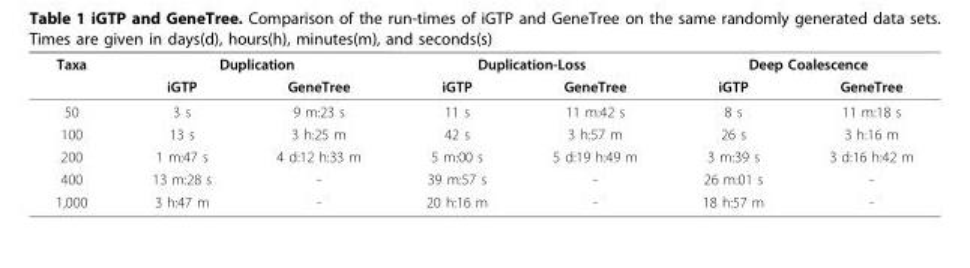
<table><thead><tr><td rowspan="2">Taxa</td><td colspan="2">Duplication</td><td colspan="2">Duplication-Loss</td><td colspan="2">Deep Coalescence</td></tr><tr><td>iGTP</td><td>GeneTree</td><td>iGTP</td><td>GeneTree</td><td>iGTP</td><td>GeneTree</td></tr></thead><tbody><tr><td>50</td><td>3 s</td><td>9 m:23 s</td><td>11 s</td><td>11 m:42 s</td><td>8 s</td><td>11 m:18 s</td></tr><tr><td>100</td><td>13 s</td><td>3 h:25 m</td><td>42 s</td><td>3 h:57 m</td><td>26 s</td><td>3 h:16 m</td></tr><tr><td>200</td><td>1 m:47 s</td><td>4 d:12 h:33 m</td><td>5 m:00 s</td><td>5 d:19 h:49 m</td><td>3 m:39 s</td><td>3 d:16 h:42 m</td></tr><tr><td>400</td><td>13 m:28 s</td><td>-</td><td>39 m:57 s</td><td>-</td><td>26 m:01 s</td><td>-</td></tr><tr><td>1,000</td><td>3 h:47 m</td><td>-</td><td>20 h:16 m</td><td>-</td><td>18 h:57 m</td><td>-</td></tr></tbody></table>